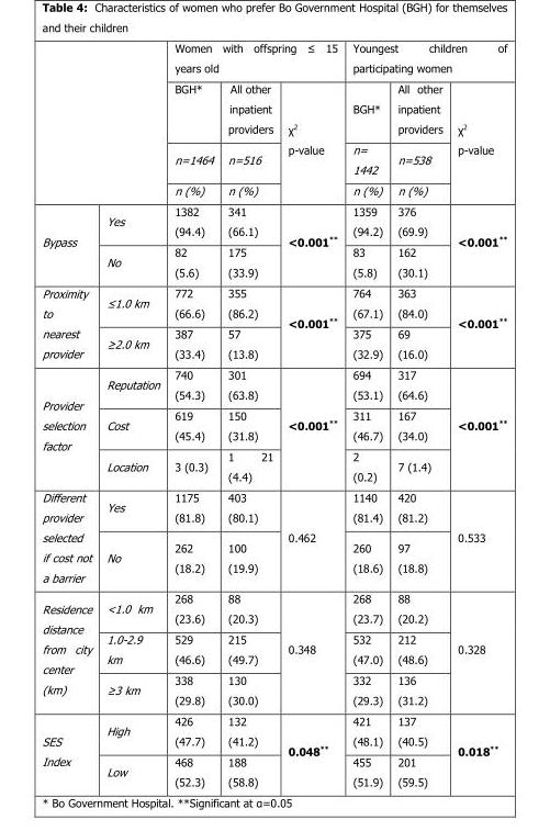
<table><thead><tr><td rowspan="4"></td><td rowspan="4"></td><td colspan="3">Women with offspring ≤ 15 years old</td><td colspan="3">Youngest children of participating women</td></tr><tr><td rowspan="3">BGH* n=1464 n (%)</td><td rowspan="3">All other inpatient providers n=516 n (%)</td><td rowspan="3">χ<sup>2</sup> p-value</td><td rowspan="3">BGH* n= 1442 n (%)</td><td rowspan="3">All other inpatient providers n=538 n (%)</td><td rowspan="3">χ<sup>2</sup> p-value</td></tr><tr></tr><tr></tr></thead><tbody><tr><td rowspan="2">Bypass</td><td>Yes</td><td>1382 (94.4)</td><td>341 (66.1)</td><td rowspan="2">&lt;0.001**</td><td>1359 (94.2)</td><td>376 (69.9)</td><td rowspan="2">&lt;0.001**</td></tr><tr><td>No</td><td>82 (5.6)</td><td>175 (33.9)</td><td>83 (5.8)</td><td>162 (30.1)</td></tr><tr><td rowspan="2">Proximity to nearest provider</td><td>≤1.0 km</td><td>772 (66.6)</td><td>355 (86.2)</td><td rowspan="2">&lt;0.001**</td><td>764 (67.1)</td><td>363 (84.0)</td><td rowspan="2">&lt;0.001**</td></tr><tr><td>≥2.0 km</td><td>387 (33.4)</td><td>57 (13.8)</td><td>375 (32.9)</td><td>69 (16.0)</td></tr><tr><td rowspan="3">Provider selection factor</td><td>Reputation</td><td>740 (54.3)</td><td>301 (63.8)</td><td rowspan="3">&lt;0.001**</td><td>694 (53.1)</td><td>317 (64.6)</td><td rowspan="3">&lt;0.001**</td></tr><tr><td>Cost</td><td>619 (45.4)</td><td>150 (31.8)</td><td>311 (46.7)</td><td>167 (34.0)</td></tr><tr><td>Location</td><td>3 (0.3)</td><td>1 21 (4.4)</td><td>2 (0.2)</td><td>7 (1.4)</td></tr><tr><td rowspan="2">Different provider selected if cost not a barrier</td><td>Yes</td><td>1175 (81.8)</td><td>403 (80.1)</td><td rowspan="2">0.462</td><td>1140 (81.4)</td><td>420 (81.2)</td><td rowspan="2">0.533</td></tr><tr><td>No</td><td>262 (18.2)</td><td>100 (19.9)</td><td>260 (18.6)</td><td>97 (18.8)</td></tr><tr><td rowspan="3">Residence distance from city center (km)</td><td>&lt;1.0 km</td><td>268 (23.6)</td><td>88 (20.3)</td><td rowspan="3">0.348</td><td>268 (23.7)</td><td>88 (20.2)</td><td rowspan="3">0.328</td></tr><tr><td>1.0-2.9 km</td><td>529 (46.6)</td><td>215 (49.7)</td><td>532 (47.0)</td><td>212 (48.6)</td></tr><tr><td>≥3 km</td><td>338 (29.8)</td><td>130 (30.0)</td><td>332 (29.3)</td><td>136 (31.2)</td></tr><tr><td rowspan="2">SES Index</td><td>High</td><td>426 (47.7)</td><td>132 (41.2)</td><td rowspan="2">0.048**</td><td>421 (48.1)</td><td>137 (40.5)</td><td rowspan="2">0.018**</td></tr><tr><td>Low</td><td>468 (52.3)</td><td>188 (58.8)</td><td>455 (51.9)</td><td>201 (59.5)</td></tr></tbody></table>